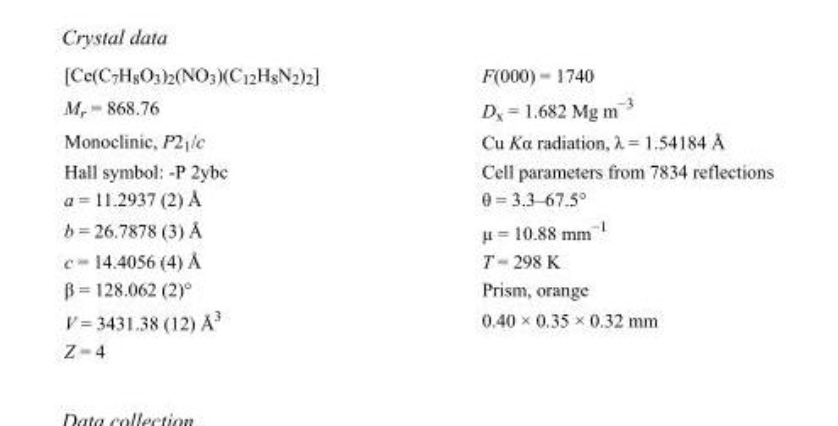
<table><tbody><tr><td>[Ce(C<sub>7</sub>H<sub>8</sub>O<sub>3</sub>)<sub>2</sub>(NO<sub>3</sub>)(C<sub>12</sub>H<sub>8</sub>N<sub>2</sub>)<sub>2</sub>]</td><td>F(000) = 1740</td></tr><tr><td>M<sub>r</sub> = 868.76</td><td>D<sub>x</sub> = 1.682 Mg m<sup>−3</sup></td></tr><tr><td>Monoclinic, P2<sub>1</sub>/c</td><td>Cu Kα radiation, λ = 1.54184 Å</td></tr><tr><td>Hall symbol: -P 2ybc</td><td>Cell parameters from 7834 reflections</td></tr><tr><td>a = 11.2937 (2) Å</td><td>θ = 3.3–67.5°</td></tr><tr><td>b = 26.7878 (3) Å</td><td>µ = 10.88 mm<sup>−1</sup></td></tr><tr><td>c = 14.4056 (4) Å</td><td>T = 298 K</td></tr><tr><td>β = 128.062 (2)°</td><td>Prism, orange</td></tr><tr><td>V = 3431.38 (12) Å<sup>3</sup></td><td>0.40 × 0.35 × 0.32 mm</td></tr><tr><td>Z = 4</td><td></td></tr></tbody></table>